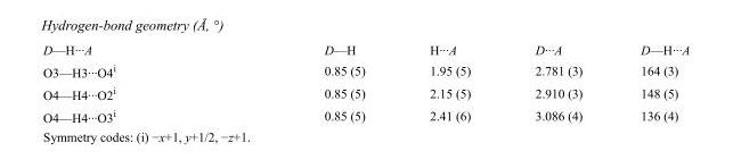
<table><tbody><tr><td>D—H···A</td><td>D—H</td><td>H···A</td><td>D···A</td><td>D—H···A</td></tr><tr><td>O3—H3···O4<sup>i</sup></td><td>0.85 (5)</td><td>1.95 (5)</td><td>2.781 (3)</td><td>164 (3)</td></tr><tr><td>O4—H4···O2<sup>i</sup></td><td>0.85 (5)</td><td>2.15 (5)</td><td>2.910 (3)</td><td>148 (5)</td></tr><tr><td>O4—H4···O3<sup>i</sup></td><td>0.85 (5)</td><td>2.41 (6)</td><td>3.086 (4)</td><td>136 (4)</td></tr></tbody></table>